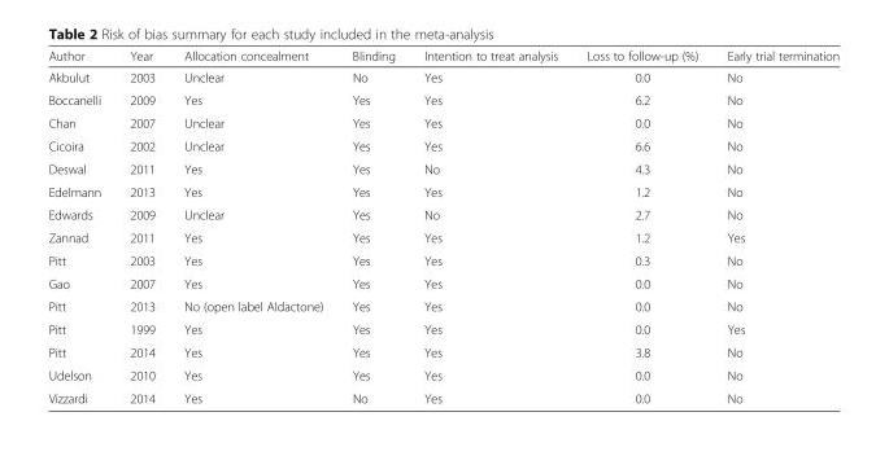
<table><thead><tr><td>Author</td><td>Year</td><td>Allocation concealment</td><td>Blinding</td><td>Intention to treat analysis</td><td>Loss to follow-up (%)</td><td>Early trial termination</td></tr></thead><tbody><tr><td>Akbulut</td><td>2003</td><td>Unclear</td><td>No</td><td>Yes</td><td>0.0</td><td>No</td></tr><tr><td>Boccanelli</td><td>2009</td><td>Yes</td><td>Yes</td><td>Yes</td><td>6.2</td><td>No</td></tr><tr><td>Chan</td><td>2007</td><td>Unclear</td><td>Yes</td><td>Yes</td><td>0.0</td><td>No</td></tr><tr><td>Cicoira</td><td>2002</td><td>Unclear</td><td>Yes</td><td>Yes</td><td>6.6</td><td>No</td></tr><tr><td>Deswal</td><td>2011</td><td>Yes</td><td>Yes</td><td>No</td><td>4.3</td><td>No</td></tr><tr><td>Edelmann</td><td>2013</td><td>Yes</td><td>Yes</td><td>Yes</td><td>1.2</td><td>No</td></tr><tr><td>Edwards</td><td>2009</td><td>Unclear</td><td>Yes</td><td>No</td><td>2.7</td><td>No</td></tr><tr><td>Zannad</td><td>2011</td><td>Yes</td><td>Yes</td><td>Yes</td><td>1.2</td><td>Yes</td></tr><tr><td>Pitt</td><td>2003</td><td>Yes</td><td>Yes</td><td>Yes</td><td>0.3</td><td>No</td></tr><tr><td>Gao</td><td>2007</td><td>Yes</td><td>Yes</td><td>Yes</td><td>0.0</td><td>No</td></tr><tr><td>Pitt</td><td>2013</td><td>No (open label Aldactone)</td><td>Yes</td><td>Yes</td><td>0.0</td><td>No</td></tr><tr><td>Pitt</td><td>1999</td><td>Yes</td><td>Yes</td><td>Yes</td><td>0.0</td><td>Yes</td></tr><tr><td>Pitt</td><td>2014</td><td>Yes</td><td>Yes</td><td>Yes</td><td>3.8</td><td>No</td></tr><tr><td>Udelson</td><td>2010</td><td>Yes</td><td>Yes</td><td>Yes</td><td>0.0</td><td>No</td></tr><tr><td>Vizzardi</td><td>2014</td><td>Yes</td><td>No</td><td>Yes</td><td>0.0</td><td>No</td></tr></tbody></table>